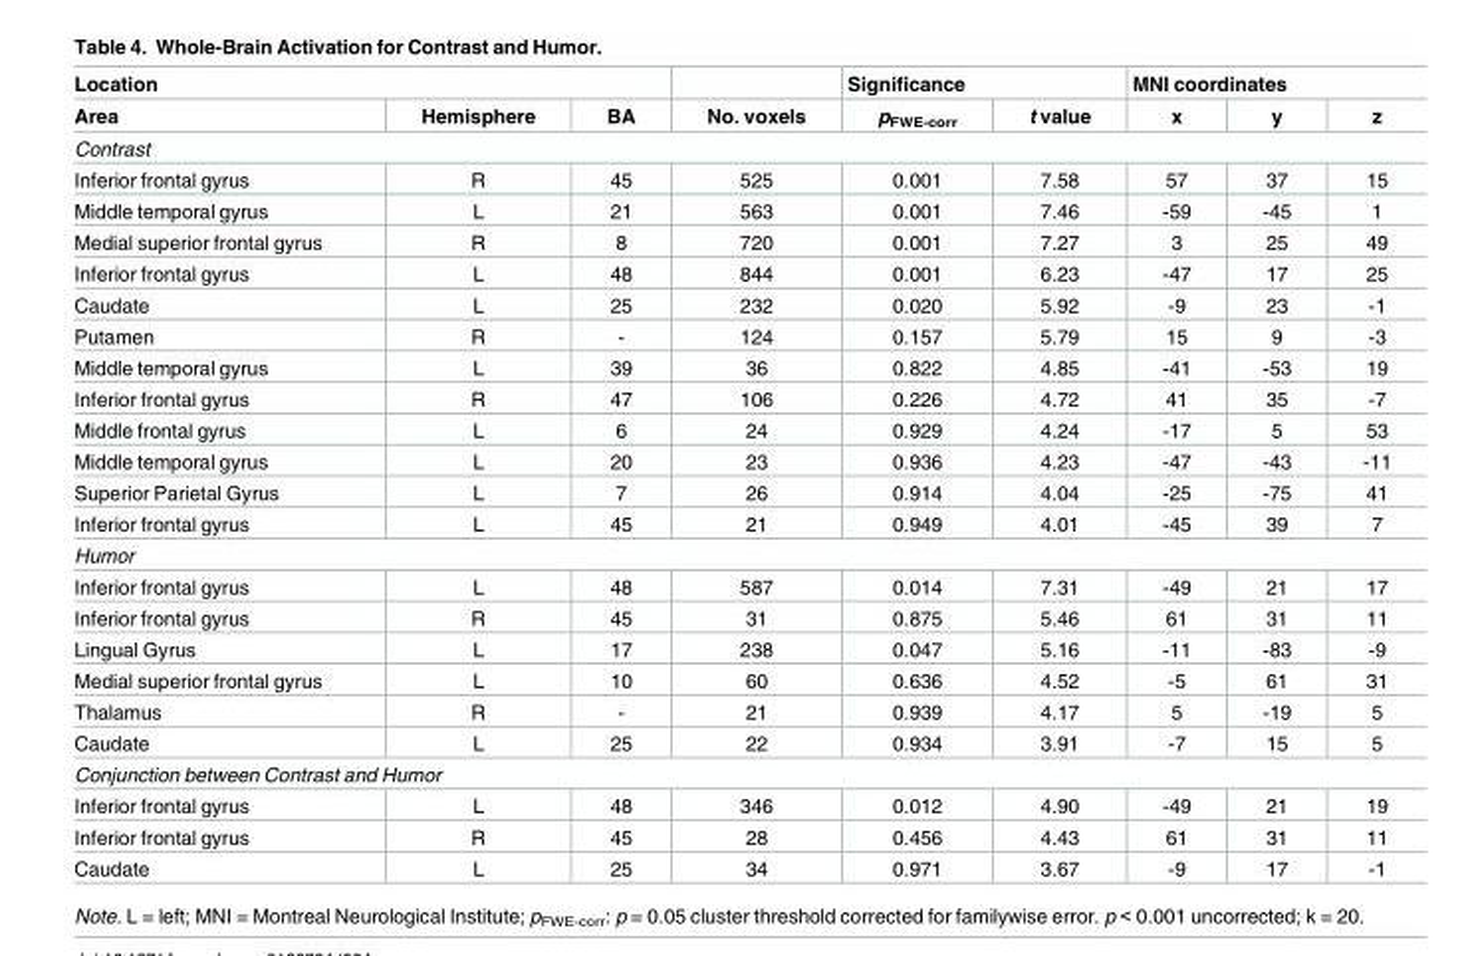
<table><thead><tr><td colspan="3">Location</td><td rowspan="2">No. voxels</td><td colspan="2">Significance</td><td colspan="3">MNI coordinates</td></tr><tr><td>Area</td><td>Hemisphere</td><td>BA</td><td>p<sub>FWE-corr</sub></td><td>t value</td><td>x</td><td>y</td><td>z</td></tr></thead><tbody><tr><td colspan="9">Contrast</td></tr><tr><td>Inferior frontal gyrus</td><td>R</td><td>45</td><td>525</td><td>0.001</td><td>7.58</td><td>57</td><td>37</td><td>15</td></tr><tr><td>Middle temporal gyrus</td><td>L</td><td>21</td><td>563</td><td>0.001</td><td>7.46</td><td>-59</td><td>-45</td><td>1</td></tr><tr><td>Medial superior frontal gyrus</td><td>R</td><td>8</td><td>720</td><td>0.001</td><td>7.27</td><td>3</td><td>25</td><td>49</td></tr><tr><td>Inferior frontal gyrus</td><td>L</td><td>48</td><td>844</td><td>0.001</td><td>6.23</td><td>-47</td><td>17</td><td>25</td></tr><tr><td>Caudate</td><td>L</td><td>25</td><td>232</td><td>0.020</td><td>5.92</td><td>-9</td><td>23</td><td>-1</td></tr><tr><td>Putamen</td><td>R</td><td>-</td><td>124</td><td>0.157</td><td>5.79</td><td>15</td><td>9</td><td>-3</td></tr><tr><td>Middle temporal gyrus</td><td>L</td><td>39</td><td>36</td><td>0.822</td><td>4.85</td><td>-41</td><td>-53</td><td>19</td></tr><tr><td>Inferior frontal gyrus</td><td>R</td><td>47</td><td>106</td><td>0.226</td><td>4.72</td><td>41</td><td>35</td><td>-7</td></tr><tr><td>Middle frontal gyrus</td><td>L</td><td>6</td><td>24</td><td>0.929</td><td>4.24</td><td>-17</td><td>5</td><td>53</td></tr><tr><td>Middle temporal gyrus</td><td>L</td><td>20</td><td>23</td><td>0.936</td><td>4.23</td><td>-47</td><td>-43</td><td>-11</td></tr><tr><td>Superior Parietal Gyrus</td><td>L</td><td>7</td><td>26</td><td>0.914</td><td>4.04</td><td>-25</td><td>-75</td><td>41</td></tr><tr><td>Inferior frontal gyrus</td><td>L</td><td>45</td><td>21</td><td>0.949</td><td>4.01</td><td>-45</td><td>39</td><td>7</td></tr><tr><td colspan="9">Humor</td></tr><tr><td>Inferior frontal gyrus</td><td>L</td><td>48</td><td>587</td><td>0.014</td><td>7.31</td><td>-49</td><td>21</td><td>17</td></tr><tr><td>Inferior frontal gyrus</td><td>R</td><td>45</td><td>31</td><td>0.875</td><td>5.46</td><td>61</td><td>31</td><td>11</td></tr><tr><td>Lingual Gyrus</td><td>L</td><td>17</td><td>238</td><td>0.047</td><td>5.16</td><td>-11</td><td>-83</td><td>-9</td></tr><tr><td>Medial superior frontal gyrus</td><td>L</td><td>10</td><td>60</td><td>0.636</td><td>4.52</td><td>-5</td><td>61</td><td>31</td></tr><tr><td>Thalamus</td><td>R</td><td>-</td><td>21</td><td>0.939</td><td>4.17</td><td>5</td><td>-19</td><td>5</td></tr><tr><td>Caudate</td><td>L</td><td>25</td><td>22</td><td>0.934</td><td>3.91</td><td>-7</td><td>15</td><td>5</td></tr><tr><td colspan="9">Conjunction between Contrast and Humor</td></tr><tr><td>Inferior frontal gyrus</td><td>L</td><td>48</td><td>346</td><td>0.012</td><td>4.90</td><td>-49</td><td>21</td><td>19</td></tr><tr><td>Inferior frontal gyrus</td><td>R</td><td>45</td><td>28</td><td>0.456</td><td>4.43</td><td>61</td><td>31</td><td>11</td></tr><tr><td>Caudate</td><td>L</td><td>25</td><td>34</td><td>0.971</td><td>3.67</td><td>-9</td><td>17</td><td>-1</td></tr></tbody></table>